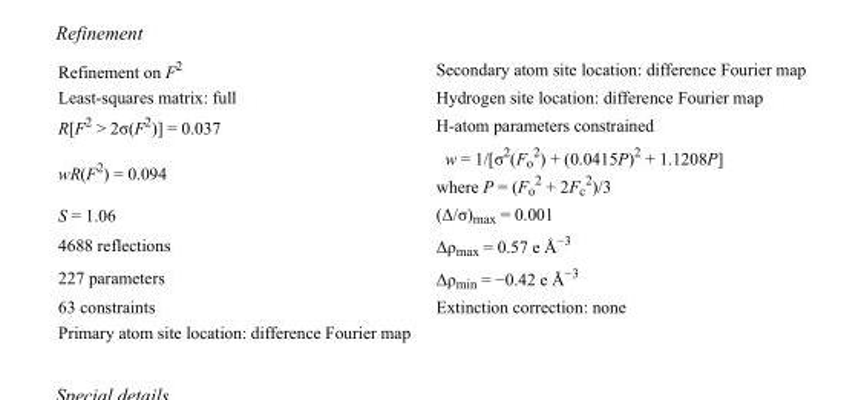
<table><tbody><tr><td>Refinement on F<sup>2</sup></td><td>Secondary atom site location: difference Fourier map</td></tr><tr><td>Least-squares matrix: full</td><td>Hydrogen site location: difference Fourier map</td></tr><tr><td>R[F<sup>2</sup> &gt; 2σ(F<sup>2</sup>)] = 0.037</td><td>H-atom parameters constrained</td></tr><tr><td>wR(F<sup>2</sup>) = 0.094</td><td>w = 1/[σ<sup>2</sup>(F<sub>o</sub> <sup>2</sup>) + (0.0415P)<sup>2</sup> + 1.1208P] where P = (F<sub>o</sub> <sup>2</sup> + 2F<sub>c</sub> <sup>2</sup>)/3</td></tr><tr><td>S = 1.06</td><td>(Δ/σ)<sub>max</sub> = 0.001</td></tr><tr><td>4688 reflections</td><td>Δρ<sub>max</sub> = 0.57 e Å<sup>−3</sup></td></tr><tr><td>227 parameters</td><td>Δρ<sub>min</sub> = −0.42 e Å<sup>−3</sup></td></tr><tr><td>63 constraints</td><td>Extinction correction: none</td></tr><tr><td>Primary atom site location: difference Fourier map</td><td></td></tr></tbody></table>